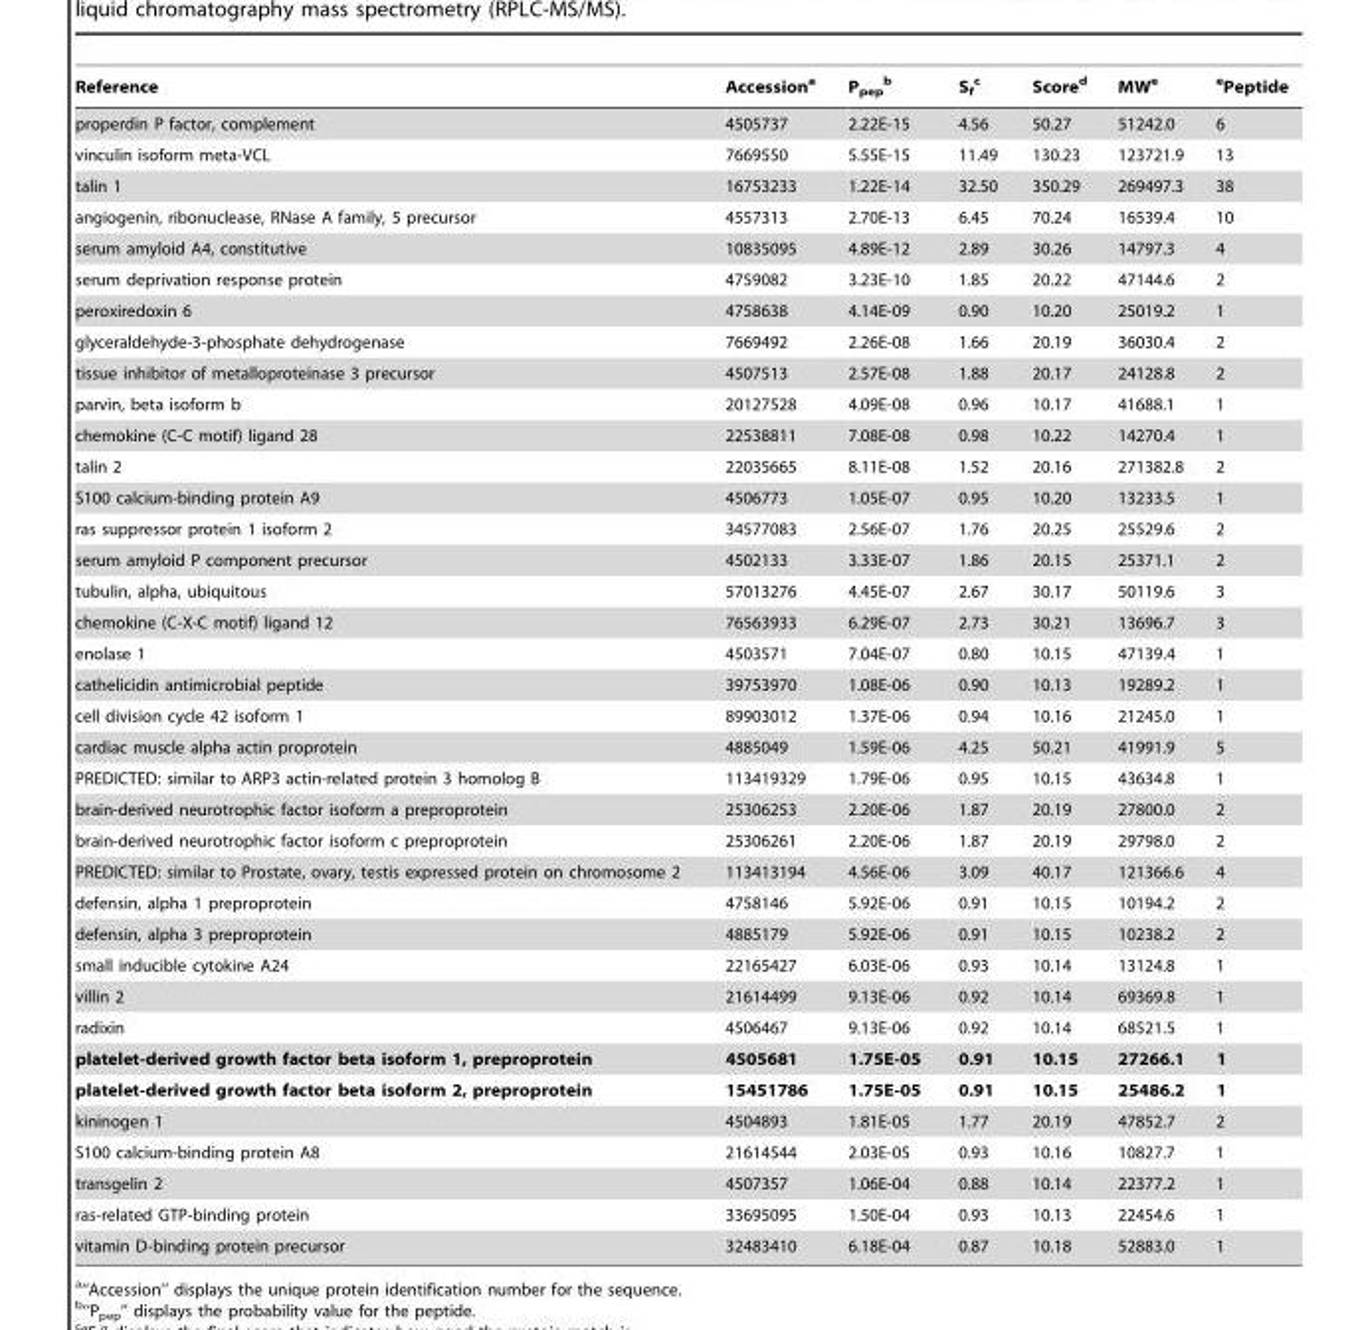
<table><thead><tr><td>Reference</td><td>Accession<sup>a</sup></td><td>P<sub>pep</sub> b</td><td>S<sub>f</sub> c</td><td>Score<sup>d</sup></td><td>MW<sup>e</sup></td><td>ePeptide</td></tr></thead><tbody><tr><td>properdin P factor, complement</td><td>4505737</td><td>2.22E-15</td><td>4.56</td><td>50.27</td><td>51242.0</td><td>6</td></tr><tr><td>vinculin isoform meta-VCL</td><td>7669550</td><td>5.55E-15</td><td>11.49</td><td>130.23</td><td>123721.9</td><td>13</td></tr><tr><td>talin 1</td><td>16753233</td><td>1.22E-14</td><td>32.50</td><td>350.29</td><td>269497.3</td><td>38</td></tr><tr><td>angiogenin, ribonuclease, RNase A family, 5 precursor</td><td>4557313</td><td>2.70E-13</td><td>6.45</td><td>70.24</td><td>16539.4</td><td>10</td></tr><tr><td>serum amyloid A4, constitutive</td><td>10835095</td><td>4.89E-12</td><td>2.89</td><td>30.26</td><td>14797.3</td><td>4</td></tr><tr><td>serum deprivation response protein</td><td>4759082</td><td>3.23E-10</td><td>1.85</td><td>20.22</td><td>47144.6</td><td>2</td></tr><tr><td>peroxiredoxin 6</td><td>4758638</td><td>4.14E-09</td><td>0.90</td><td>10.20</td><td>25019.2</td><td>1</td></tr><tr><td>glyceraldehyde-3-phosphate dehydrogenase</td><td>7669492</td><td>2.26E-08</td><td>1.66</td><td>20.19</td><td>36030.4</td><td>2</td></tr><tr><td>tissue inhibitor of metalloproteinase 3 precursor</td><td>4507513</td><td>2.57E-08</td><td>1.88</td><td>20.17</td><td>24128.8</td><td>2</td></tr><tr><td>parvin, beta isoform b</td><td>20127528</td><td>4.09E-08</td><td>0.96</td><td>10.17</td><td>41688.1</td><td>1</td></tr><tr><td>chemokine (C-C motif) ligand 28</td><td>22538811</td><td>7.08E-08</td><td>0.98</td><td>10.22</td><td>14270.4</td><td>1</td></tr><tr><td>talin 2</td><td>22035665</td><td>8.11E-08</td><td>1.52</td><td>20.16</td><td>271382.8</td><td>2</td></tr><tr><td>S100 calcium-binding protein A9</td><td>4506773</td><td>1.05E-07</td><td>0.95</td><td>10.20</td><td>13233.5</td><td>1</td></tr><tr><td>ras suppressor protein 1 isoform 2</td><td>34577083</td><td>2.56E-07</td><td>1.76</td><td>20.25</td><td>25529.6</td><td>2</td></tr><tr><td>serum amyloid P component precursor</td><td>4502133</td><td>3.33E-07</td><td>1.86</td><td>20.15</td><td>25371.1</td><td>2</td></tr><tr><td>tubulin, alpha, ubiquitous</td><td>57013276</td><td>4.45E-07</td><td>2.67</td><td>30.17</td><td>50119.6</td><td>3</td></tr><tr><td>chemokine (C-X-C motif) ligand 12</td><td>76563933</td><td>6.29E-07</td><td>2.73</td><td>30.21</td><td>13696.7</td><td>3</td></tr><tr><td>enolase 1</td><td>4503571</td><td>7.04E-07</td><td>0.80</td><td>10.15</td><td>47139.4</td><td>1</td></tr><tr><td>cathelicidin antimicrobial peptide</td><td>39753970</td><td>1.08E-06</td><td>0.90</td><td>10.13</td><td>19289.2</td><td>1</td></tr><tr><td>cell division cycle 42 isoform 1</td><td>89903012</td><td>1.37E-06</td><td>0.94</td><td>10.16</td><td>21245.0</td><td>1</td></tr><tr><td>cardiac muscle alpha actin proprotein</td><td>4885049</td><td>1.59E-06</td><td>4.25</td><td>50.21</td><td>41991.9</td><td>5</td></tr><tr><td>PREDICTED: similar to ARP3 actin-related protein 3 homolog B</td><td>113419329</td><td>1.79E-06</td><td>0.95</td><td>10.15</td><td>43634.8</td><td>1</td></tr><tr><td>brain-derived neurotrophic factor isoform a preproprotein</td><td>25306253</td><td>2.20E-06</td><td>1.87</td><td>20.19</td><td>27800.0</td><td>2</td></tr><tr><td>brain-derived neurotrophic factor isoform c preproprotein</td><td>25306261</td><td>2.20E-06</td><td>1.87</td><td>20.19</td><td>29798.0</td><td>2</td></tr><tr><td>PREDICTED: similar to Prostate, ovary, testis expressed protein on chromosome 2</td><td>113413194</td><td>4.56E-06</td><td>3.09</td><td>40.17</td><td>121366.6</td><td>4</td></tr><tr><td>defensin, alpha 1 preproprotein</td><td>4758146</td><td>5.92E-06</td><td>0.91</td><td>10.15</td><td>10194.2</td><td>2</td></tr><tr><td>defensin, alpha 3 preproprotein</td><td>4885179</td><td>5.92E-06</td><td>0.91</td><td>10.15</td><td>10238.2</td><td>2</td></tr><tr><td>small inducible cytokine A24</td><td>22165427</td><td>6.03E-06</td><td>0.93</td><td>10.14</td><td>13124.8</td><td>1</td></tr><tr><td>villin 2</td><td>21614499</td><td>9.13E-06</td><td>0.92</td><td>10.14</td><td>69369.8</td><td>1</td></tr><tr><td>radixin</td><td>4506467</td><td>9.13E-06</td><td>0.92</td><td>10.14</td><td>68521.5</td><td>1</td></tr><tr><td>platelet-derived growth factor beta isoform 1, preproprotein</td><td>4505681</td><td>1.75E-05</td><td>0.91</td><td>10.15</td><td>27266.1</td><td>1</td></tr><tr><td>platelet-derived growth factor beta isoform 2, preproprotein</td><td>15451786</td><td>1.75E-05</td><td>0.91</td><td>10.15</td><td>25486.2</td><td>1</td></tr><tr><td>kininogen 1</td><td>4504893</td><td>1.81E-05</td><td>1.77</td><td>20.19</td><td>47852.7</td><td>2</td></tr><tr><td>S100 calcium-binding protein A8</td><td>21614544</td><td>2.03E-05</td><td>0.93</td><td>10.16</td><td>10827.7</td><td>1</td></tr><tr><td>transgelin 2</td><td>4507357</td><td>1.06E-04</td><td>0.88</td><td>10.14</td><td>22377.2</td><td>1</td></tr><tr><td>ras-related GTP-binding protein</td><td>33695095</td><td>1.50E-04</td><td>0.93</td><td>10.13</td><td>22454.6</td><td>1</td></tr><tr><td>vitamin D-binding protein precursor</td><td>32483410</td><td>6.18E-04</td><td>0.87</td><td>10.18</td><td>52883.0</td><td>1</td></tr></tbody></table>